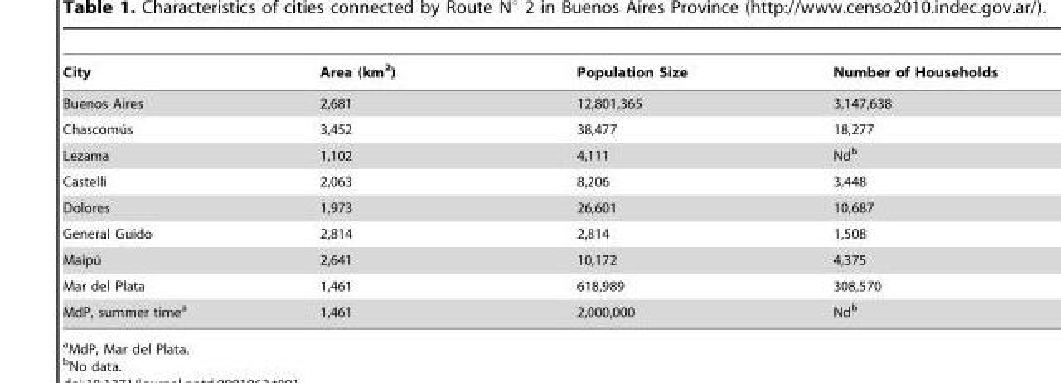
<table><thead><tr><td>City</td><td>Area (km<sup>2</sup>)</td><td>Population Size</td><td>Number of Households</td></tr></thead><tbody><tr><td>Buenos Aires</td><td>2,681</td><td>12,801,365</td><td>3,147,638</td></tr><tr><td>Chascomu´s</td><td>3,452</td><td>38,477</td><td>18,277</td></tr><tr><td>Lezama</td><td>1,102</td><td>4,111</td><td>Nd<sup>b</sup></td></tr><tr><td>Castelli</td><td>2,063</td><td>8,206</td><td>3,448</td></tr><tr><td>Dolores</td><td>1,973</td><td>26,601</td><td>10,687</td></tr><tr><td>General Guido</td><td>2,814</td><td>2,814</td><td>1,508</td></tr><tr><td>Maipu´</td><td>2,641</td><td>10,172</td><td>4,375</td></tr><tr><td>Mar del Plata</td><td>1,461</td><td>618,989</td><td>308,570</td></tr><tr><td>MdP, summer time<sup>a</sup></td><td>1,461</td><td>2,000,000</td><td>Nd<sup>b</sup></td></tr></tbody></table>